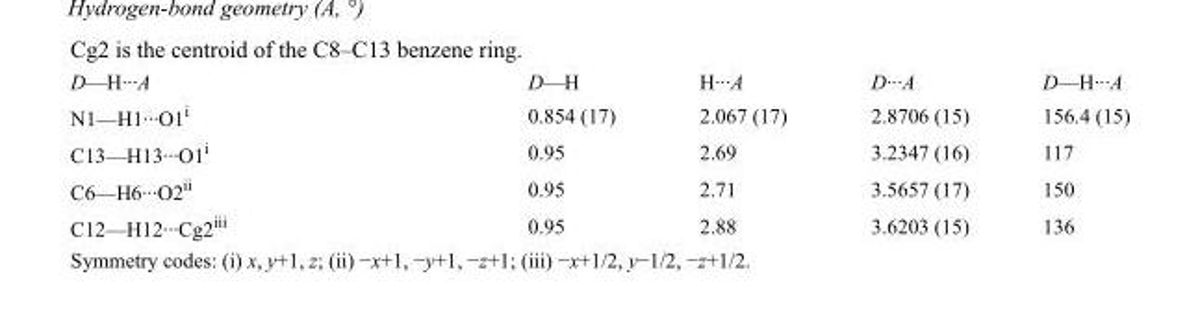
<table><tbody><tr><td>D—H···A</td><td>D—H</td><td>H···A</td><td>D···A</td><td>D—H···A</td></tr><tr><td>N1—H1···O1<sup>i</sup></td><td>0.854 (17)</td><td>2.067 (17)</td><td>2.8706 (15)</td><td>156.4 (15)</td></tr><tr><td>C13—H13···O1<sup>i</sup></td><td>0.95</td><td>2.69</td><td>3.2347 (16)</td><td>117</td></tr><tr><td>C6—H6···O2<sup>ii</sup></td><td>0.95</td><td>2.71</td><td>3.5657 (17)</td><td>150</td></tr><tr><td>C12—H12···Cg2<sup>iii</sup></td><td>0.95</td><td>2.88</td><td>3.6203 (15)</td><td>136</td></tr></tbody></table>